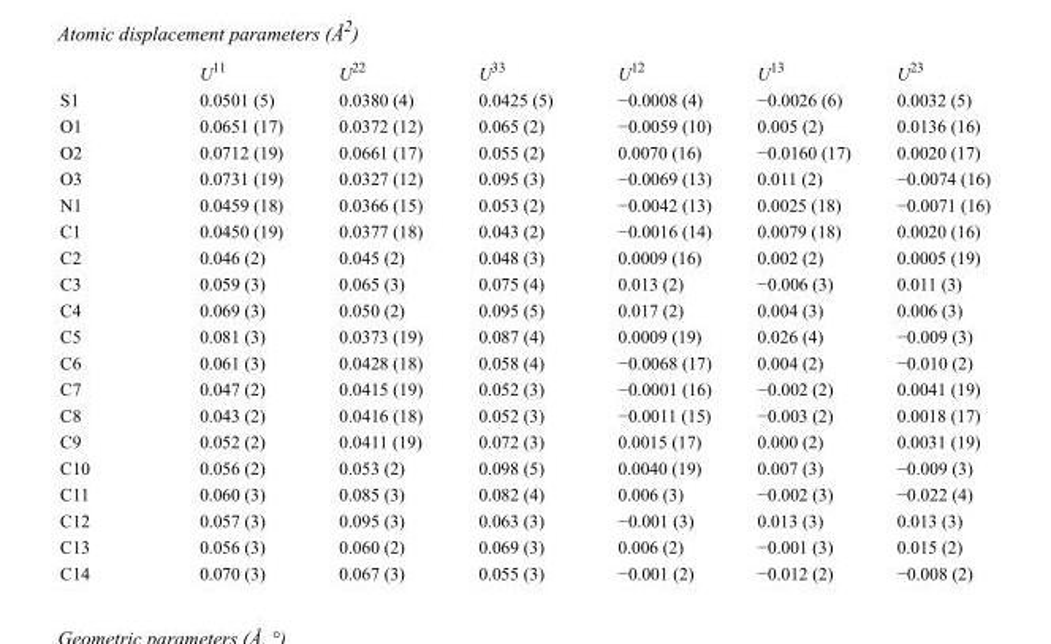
<table><thead><tr><td></td><td>U<sup>11</sup></td><td>U<sup>22</sup></td><td>U<sup>33</sup></td><td>U<sup>12</sup></td><td>U<sup>13</sup></td><td>U<sup>23</sup></td></tr></thead><tbody><tr><td>S1</td><td>0.0501 (5)</td><td>0.0380 (4)</td><td>0.0425 (5)</td><td>−0.0008 (4)</td><td>−0.0026 (6)</td><td>0.0032 (5)</td></tr><tr><td>O1</td><td>0.0651 (17)</td><td>0.0372 (12)</td><td>0.065 (2)</td><td>−0.0059 (10)</td><td>0.005 (2)</td><td>0.0136 (16)</td></tr><tr><td>O2</td><td>0.0712 (19)</td><td>0.0661 (17)</td><td>0.055 (2)</td><td>0.0070 (16)</td><td>−0.0160 (17)</td><td>0.0020 (17)</td></tr><tr><td>O3</td><td>0.0731 (19)</td><td>0.0327 (12)</td><td>0.095 (3)</td><td>−0.0069 (13)</td><td>0.011 (2)</td><td>−0.0074 (16)</td></tr><tr><td>N1</td><td>0.0459 (18)</td><td>0.0366 (15)</td><td>0.053 (2)</td><td>−0.0042 (13)</td><td>0.0025 (18)</td><td>−0.0071 (16)</td></tr><tr><td>C1</td><td>0.0450 (19)</td><td>0.0377 (18)</td><td>0.043 (2)</td><td>−0.0016 (14)</td><td>0.0079 (18)</td><td>0.0020 (16)</td></tr><tr><td>C2</td><td>0.046 (2)</td><td>0.045 (2)</td><td>0.048 (3)</td><td>0.0009 (16)</td><td>0.002 (2)</td><td>0.0005 (19)</td></tr><tr><td>C3</td><td>0.059 (3)</td><td>0.065 (3)</td><td>0.075 (4)</td><td>0.013 (2)</td><td>−0.006 (3)</td><td>0.011 (3)</td></tr><tr><td>C4</td><td>0.069 (3)</td><td>0.050 (2)</td><td>0.095 (5)</td><td>0.017 (2)</td><td>0.004 (3)</td><td>0.006 (3)</td></tr><tr><td>C5</td><td>0.081 (3)</td><td>0.0373 (19)</td><td>0.087 (4)</td><td>0.0009 (19)</td><td>0.026 (4)</td><td>−0.009 (3)</td></tr><tr><td>C6</td><td>0.061 (3)</td><td>0.0428 (18)</td><td>0.058 (4)</td><td>−0.0068 (17)</td><td>0.004 (2)</td><td>−0.010 (2)</td></tr><tr><td>C7</td><td>0.047 (2)</td><td>0.0415 (19)</td><td>0.052 (3)</td><td>−0.0001 (16)</td><td>−0.002 (2)</td><td>0.0041 (19)</td></tr><tr><td>C8</td><td>0.043 (2)</td><td>0.0416 (18)</td><td>0.052 (3)</td><td>−0.0011 (15)</td><td>−0.003 (2)</td><td>0.0018 (17)</td></tr><tr><td>C9</td><td>0.052 (2)</td><td>0.0411 (19)</td><td>0.072 (3)</td><td>0.0015 (17)</td><td>0.000 (2)</td><td>0.0031 (19)</td></tr><tr><td>C10</td><td>0.056 (2)</td><td>0.053 (2)</td><td>0.098 (5)</td><td>0.0040 (19)</td><td>0.007 (3)</td><td>−0.009 (3)</td></tr><tr><td>C11</td><td>0.060 (3)</td><td>0.085 (3)</td><td>0.082 (4)</td><td>0.006 (3)</td><td>−0.002 (3)</td><td>−0.022 (4)</td></tr><tr><td>C12</td><td>0.057 (3)</td><td>0.095 (3)</td><td>0.063 (3)</td><td>−0.001 (3)</td><td>0.013 (3)</td><td>0.013 (3)</td></tr><tr><td>C13</td><td>0.056 (3)</td><td>0.060 (2)</td><td>0.069 (3)</td><td>0.006 (2)</td><td>−0.001 (3)</td><td>0.015 (2)</td></tr><tr><td>C14</td><td>0.070 (3)</td><td>0.067 (3)</td><td>0.055 (3)</td><td>−0.001 (2)</td><td>−0.012 (2)</td><td>−0.008 (2)</td></tr></tbody></table>